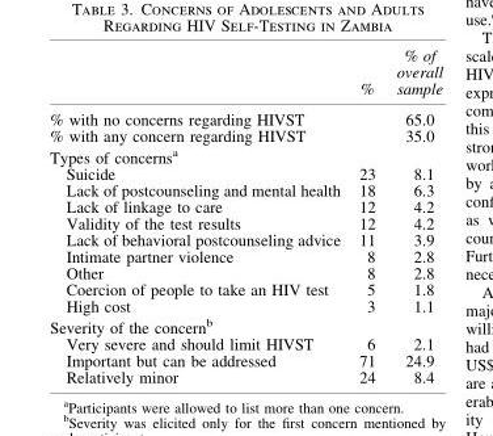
<table><thead><tr><td></td><td>%</td><td>% of overall sample</td></tr></thead><tbody><tr><td>% with no concerns regarding HIVST</td><td></td><td>65.0</td></tr><tr><td>% with any concern regarding HIVST</td><td></td><td>35.0</td></tr><tr><td colspan="3">Types of concerns<sup>a</sup></td></tr><tr><td>Suicide</td><td>23</td><td>8.1</td></tr><tr><td>Lack of postcounseling and mental health</td><td>18</td><td>6.3</td></tr><tr><td>Lack of linkage to care</td><td>12</td><td>4.2</td></tr><tr><td>Validity of the test results</td><td>12</td><td>4.2</td></tr><tr><td>Lack of behavioral postcounseling advice</td><td>11</td><td>3.9</td></tr><tr><td>Intimate partner violence</td><td>8</td><td>2.8</td></tr><tr><td>Other</td><td>8</td><td>2.8</td></tr><tr><td>Coercion of people to take an HIV test</td><td>5</td><td>1.8</td></tr><tr><td>High cost</td><td>3</td><td>1.1</td></tr><tr><td colspan="3">Severity of the concern<sup>b</sup></td></tr><tr><td>Very severe and should limit HIVST</td><td>6</td><td>2.1</td></tr><tr><td>Important but can be addressed</td><td>71</td><td>24.9</td></tr><tr><td>Relatively minor</td><td>24</td><td>8.4</td></tr></tbody></table>